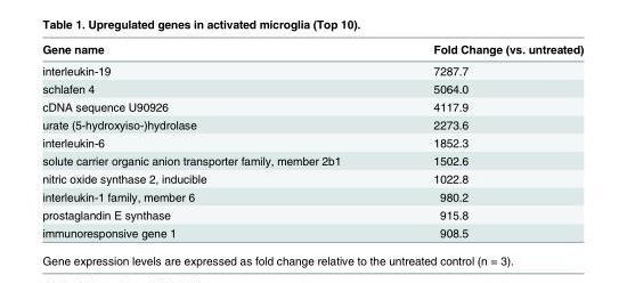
<table><thead><tr><td>Gene name</td><td>Fold Change (vs. untreated)</td></tr></thead><tbody><tr><td>interleukin-19</td><td>7287.7</td></tr><tr><td>schlafen 4</td><td>5064.0</td></tr><tr><td>cDNA sequence U90926</td><td>4117.9</td></tr><tr><td>urate (5-hydroxyiso-)hydrolase</td><td>2273.6</td></tr><tr><td>interleukin-6</td><td>1852.3</td></tr><tr><td>solute carrier organic anion transporter family, member 2b1</td><td>1502.6</td></tr><tr><td>nitric oxide synthase 2, inducible</td><td>1022.8</td></tr><tr><td>interleukin-1 family, member 6</td><td>980.2</td></tr><tr><td>prostaglandin E synthase</td><td>915.8</td></tr><tr><td>immunoresponsive gene 1</td><td>908.5</td></tr></tbody></table>